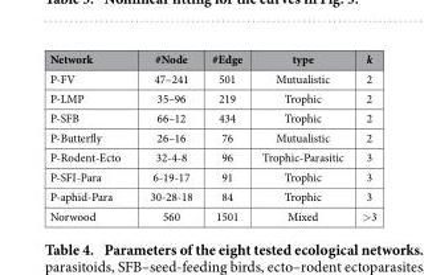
<table><thead><tr><td>Network</td><td>#Node</td><td>#Edge</td><td>type</td><td>k</td></tr></thead><tbody><tr><td>P-FV</td><td>47–241</td><td>501</td><td>Mutualistic</td><td>2</td></tr><tr><td>P-LMP</td><td>35–96</td><td>219</td><td>Trophic</td><td>2</td></tr><tr><td>P-SFB</td><td>66–12</td><td>434</td><td>Trophic</td><td>2</td></tr><tr><td>P-Butterfly</td><td>26–16</td><td>76</td><td>Mutualistic</td><td>2</td></tr><tr><td>P-Rodent-Ecto</td><td>32-4-8</td><td>96</td><td>Trophic-Parasitic</td><td>3</td></tr><tr><td>P-SFI-Para</td><td>6-19-17</td><td>91</td><td>Trophic</td><td>3</td></tr><tr><td>P-aphid-Para</td><td>30-28-18</td><td>84</td><td>Trophic</td><td>3</td></tr><tr><td>Norwood</td><td>560</td><td>1501</td><td>Mixed</td><td>&gt;</td></tr></tbody></table>